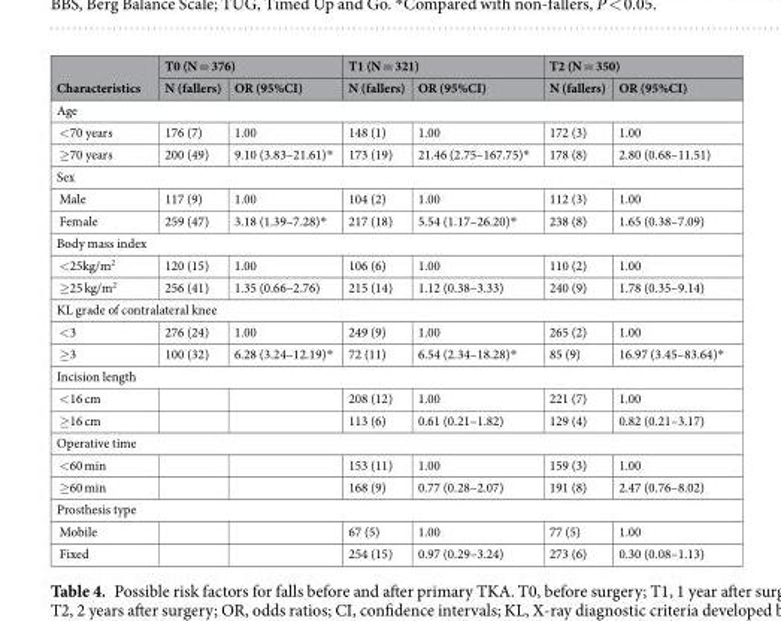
<table><thead><tr><td rowspan="2">Characteristics</td><td colspan="2">T0 (N = 376)</td><td colspan="2">T1 (N = 321)</td><td colspan="2">T2 (N = 350)</td></tr><tr><td>N (fallers)</td><td>OR (95%CI)</td><td>N (fallers)</td><td>OR (95%CI)</td><td>N (fallers)</td><td>OR (95%CI)</td></tr></thead><tbody><tr><td colspan="7">Age</td></tr><tr><td>&lt;70 years</td><td>176 (7)</td><td>1.00</td><td>148 (1)</td><td>1.00</td><td>172 (3)</td><td>1.00</td></tr><tr><td>≥70 years</td><td>200 (49)</td><td>9.10 (3.83–21.61)*</td><td>173 (19)</td><td>21.46 (2.75–167.75)*</td><td>178 (8)</td><td>2.80 (0.68–11.51)</td></tr><tr><td colspan="7">Sex</td></tr><tr><td>Male</td><td>117 (9)</td><td>1.00</td><td>104 (2)</td><td>1.00</td><td>112 (3)</td><td>1.00</td></tr><tr><td>Female</td><td>259 (47)</td><td>3.18 (1.39–7.28)*</td><td>217 (18)</td><td>5.54 (1.17–26.20)*</td><td>238 (8)</td><td>1.65 (0.38–7.09)</td></tr><tr><td colspan="7">Body mass index</td></tr><tr><td>&lt;25kg/m<sup>2</sup></td><td>120 (15)</td><td>1.00</td><td>106 (6)</td><td>1.00</td><td>110 (2)</td><td>1.00</td></tr><tr><td>≥25 kg/m<sup>2</sup></td><td>256 (41)</td><td>1.35 (0.66–2.76)</td><td>215 (14)</td><td>1.12 (0.38–3.33)</td><td>240 (9)</td><td>1.78 (0.35–9.14)</td></tr><tr><td colspan="7">KL grade of contralateral knee</td></tr><tr><td>&lt;3</td><td>276 (24)</td><td>1.00</td><td>249 (9)</td><td>1.00</td><td>265 (2)</td><td>1.00</td></tr><tr><td>≥3</td><td>100 (32)</td><td>6.28 (3.24–12.19)*</td><td>72 (11)</td><td>6.54 (2.34–18.28)*</td><td>85 (9)</td><td>16.97 (3.45–83.64)*</td></tr><tr><td colspan="7">Incision length</td></tr><tr><td>&lt;16 cm</td><td></td><td></td><td>208 (12)</td><td>1.00</td><td>221 (7)</td><td>1.00</td></tr><tr><td>≥16 cm</td><td></td><td></td><td>113 (6)</td><td>0.61 (0.21–1.82)</td><td>129 (4)</td><td>0.82 (0.21–3.17)</td></tr><tr><td colspan="7">Operative time</td></tr><tr><td>&lt;60 min</td><td></td><td></td><td>153 (11)</td><td>1.00</td><td>159 (3)</td><td>1.00</td></tr><tr><td>≥60 min</td><td></td><td></td><td>168 (9)</td><td>0.77 (0.28–2.07)</td><td>191 (8)</td><td>2.47 (0.76–8.02)</td></tr><tr><td colspan="7">Prosthesis type</td></tr><tr><td>Mobile</td><td></td><td></td><td>67 (5)</td><td>1.00</td><td>77 (5)</td><td>1.00</td></tr><tr><td>Fixed</td><td></td><td></td><td>254 (15)</td><td>0.97 (0.29–3.24)</td><td>273 (6)</td><td>0.30 (0.08–1.13)</td></tr></tbody></table>